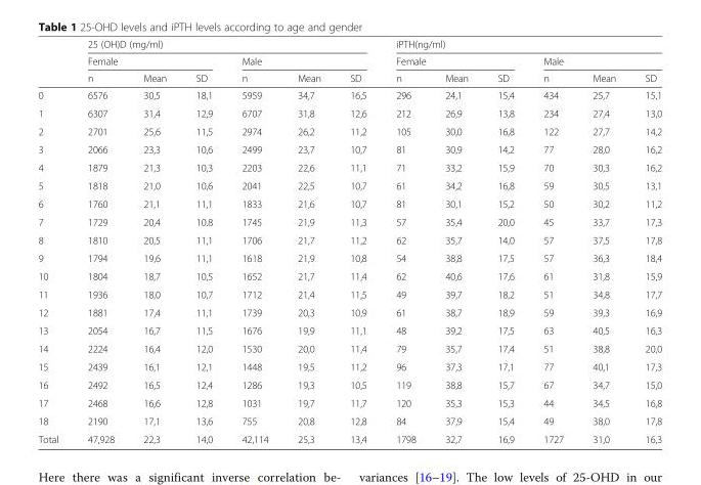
<table><thead><tr><td rowspan="3"></td><td colspan="6">25 (OH)D (mg/ml)</td><td colspan="6">iPTH(ng/ml)</td></tr><tr><td colspan="3">Female</td><td colspan="3">Male</td><td colspan="3">Female</td><td colspan="3">Male</td></tr><tr><td>n</td><td>Mean</td><td>SD</td><td>n</td><td>Mean</td><td>SD</td><td>n</td><td>Mean</td><td>SD</td><td>n</td><td>Mean</td><td>SD</td></tr></thead><tbody><tr><td>0</td><td>6576</td><td>30,5</td><td>18,1</td><td>5959</td><td>34,7</td><td>16,5</td><td>296</td><td>24,1</td><td>15,4</td><td>434</td><td>25,7</td><td>15,1</td></tr><tr><td>1</td><td>6307</td><td>31,4</td><td>12,9</td><td>6707</td><td>31,8</td><td>12,6</td><td>212</td><td>26,9</td><td>13,8</td><td>234</td><td>27,4</td><td>13,0</td></tr><tr><td>2</td><td>2701</td><td>25,6</td><td>11,5</td><td>2974</td><td>26,2</td><td>11,2</td><td>105</td><td>30,0</td><td>16,8</td><td>122</td><td>27,7</td><td>14,2</td></tr><tr><td>3</td><td>2066</td><td>23,3</td><td>10,6</td><td>2499</td><td>23,7</td><td>10,7</td><td>81</td><td>30,9</td><td>14,2</td><td>77</td><td>28,0</td><td>16,2</td></tr><tr><td>4</td><td>1879</td><td>21,3</td><td>10,3</td><td>2203</td><td>22,6</td><td>11,1</td><td>71</td><td>33,2</td><td>15,9</td><td>70</td><td>30,3</td><td>16,2</td></tr><tr><td>5</td><td>1818</td><td>21,0</td><td>10,6</td><td>2041</td><td>22,5</td><td>10,7</td><td>61</td><td>34,2</td><td>16,8</td><td>59</td><td>30,5</td><td>13,1</td></tr><tr><td>6</td><td>1760</td><td>21,1</td><td>11,1</td><td>1833</td><td>21,6</td><td>10,7</td><td>81</td><td>30,1</td><td>15,2</td><td>50</td><td>30,2</td><td>11,2</td></tr><tr><td>7</td><td>1729</td><td>20,4</td><td>10.8</td><td>1745</td><td>21,9</td><td>11,3</td><td>57</td><td>35,4</td><td>20,0</td><td>45</td><td>33,7</td><td>17,3</td></tr><tr><td>8</td><td>1810</td><td>20,5</td><td>11,1</td><td>1706</td><td>21,7</td><td>11,2</td><td>62</td><td>35,7</td><td>14,0</td><td>57</td><td>37,5</td><td>17,8</td></tr><tr><td>9</td><td>1794</td><td>19,6</td><td>11,1</td><td>1618</td><td>21,9</td><td>10,8</td><td>54</td><td>38,8</td><td>17,5</td><td>57</td><td>36,3</td><td>18,4</td></tr><tr><td>10</td><td>1804</td><td>18,7</td><td>10,5</td><td>1652</td><td>21,7</td><td>11,4</td><td>62</td><td>40,6</td><td>17,6</td><td>61</td><td>31,8</td><td>15,9</td></tr><tr><td>11</td><td>1936</td><td>18,0</td><td>10,7</td><td>1712</td><td>21,4</td><td>11,5</td><td>49</td><td>39,7</td><td>18,2</td><td>51</td><td>34,8</td><td>17,7</td></tr><tr><td>12</td><td>1881</td><td>17,4</td><td>11,1</td><td>1739</td><td>20,3</td><td>10,9</td><td>61</td><td>38,7</td><td>18,9</td><td>59</td><td>39,3</td><td>16,9</td></tr><tr><td>13</td><td>2054</td><td>16,7</td><td>11,5</td><td>1676</td><td>19,9</td><td>11,1</td><td>48</td><td>39,2</td><td>17,5</td><td>63</td><td>40,5</td><td>16,3</td></tr><tr><td>14</td><td>2224</td><td>16,4</td><td>12,0</td><td>1530</td><td>20,0</td><td>11,4</td><td>79</td><td>35,7</td><td>17,4</td><td>51</td><td>38,8</td><td>20,0</td></tr><tr><td>15</td><td>2439</td><td>16,1</td><td>12,1</td><td>1448</td><td>19,5</td><td>11,2</td><td>96</td><td>37,3</td><td>17,1</td><td>77</td><td>40,1</td><td>17,3</td></tr><tr><td>16</td><td>2492</td><td>16,5</td><td>12,4</td><td>1286</td><td>19,3</td><td>10,5</td><td>119</td><td>38,8</td><td>15,7</td><td>67</td><td>34,7</td><td>15,0</td></tr><tr><td>17</td><td>2468</td><td>16,6</td><td>12,8</td><td>1031</td><td>19,7</td><td>11,7</td><td>120</td><td>35,3</td><td>15,3</td><td>44</td><td>34,5</td><td>16,8</td></tr><tr><td>18</td><td>2190</td><td>17,1</td><td>13,6</td><td>755</td><td>20,8</td><td>12,8</td><td>84</td><td>37,9</td><td>15,4</td><td>49</td><td>38,0</td><td>17,8</td></tr><tr><td>Total</td><td>47,928</td><td>22,3</td><td>14,0</td><td>42,114</td><td>25,3</td><td>13,4</td><td>1798</td><td>32,7</td><td>16,9</td><td>1727</td><td>31,0</td><td>16,3</td></tr></tbody></table>